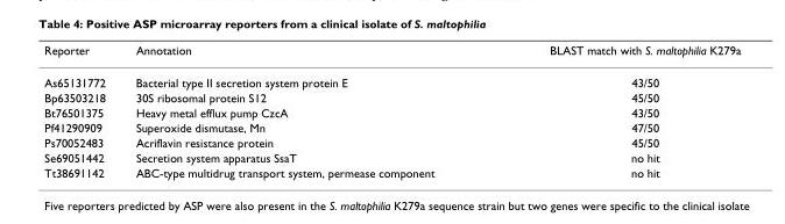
<table><thead><tr><td>Reporter</td><td>Annotation</td><td>BLAST match with S. maltophilia K279a</td></tr></thead><tbody><tr><td>As65131772</td><td>Bacterial type II secretion system protein E</td><td>43/50</td></tr><tr><td>Bp63503218</td><td>30S ribosomal protein S12</td><td>45/50</td></tr><tr><td>Bt76501375</td><td>Heavy metal efflux pump CzcA</td><td>43/50</td></tr><tr><td>Pf41290909</td><td>Superoxide dismutase, Mn</td><td>47/50</td></tr><tr><td>Ps70052483</td><td>Acriflavin resistance protein</td><td>45/50</td></tr><tr><td>Se69051442</td><td>Secretion system apparatus SsaT</td><td>no hit</td></tr><tr><td>Tt38691142</td><td>ABC-type multidrug transport system, permease component</td><td>no hit</td></tr></tbody></table>